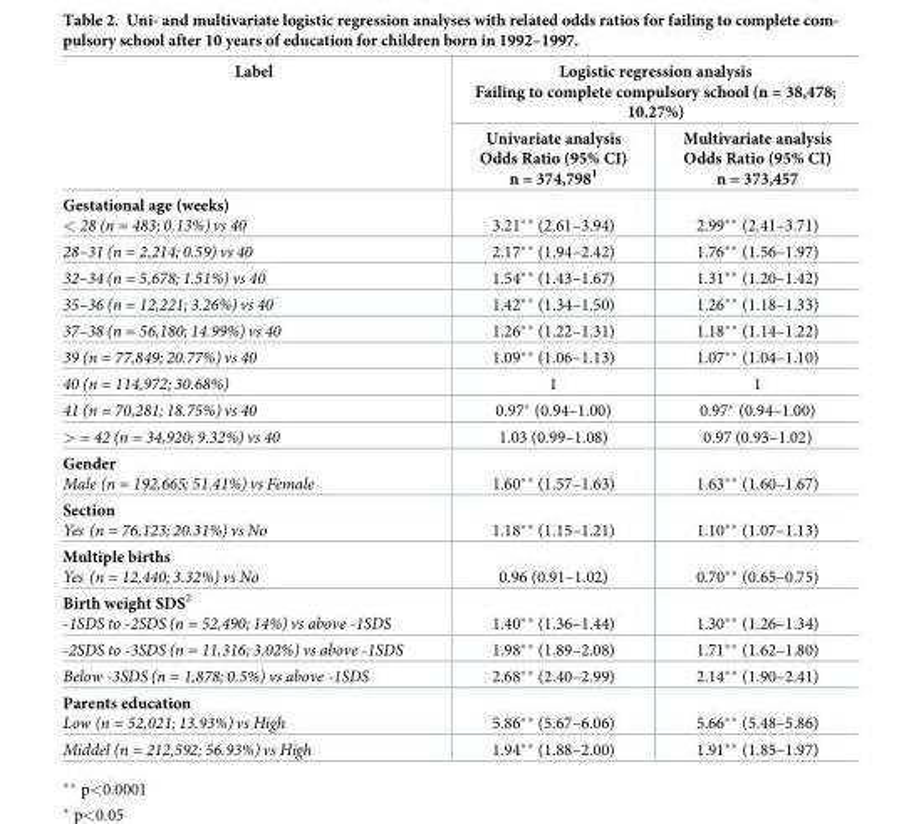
<table><thead><tr><td rowspan="2">Label</td><td colspan="2">Logistic regression analysis Failing to complete compulsory school (n = 38,478; 10.27%)</td></tr><tr><td>Univariate analysis Odds Ratio (95% CI) n = 374,798<sup>1</sup></td><td>Multivariate analysis Odds Ratio (95% CI) n = 373,457</td></tr></thead><tbody><tr><td>Gestational age (weeks) &lt; 28 (n = 483; 0.13%) vs 40</td><td>3.21** (2.61–3.94)</td><td>2.99** (2.41–3.71)</td></tr><tr><td>28–31 (n = 2,214; 0.59) vs 40</td><td>2.17** (1.94–2.42)</td><td>1.76** (1.56–1.97)</td></tr><tr><td>32–34 (n = 5,678; 1.51%) vs 40</td><td>1.54** (1.43–1.67)</td><td>1.31** (1.20–1.42)</td></tr><tr><td>35–36 (n = 12,221; 3.26%) vs 40</td><td>1.42** (1.34–1.50)</td><td>1.26** (1.18–1.33)</td></tr><tr><td>37–38 (n = 56,180; 14.99%) vs 40</td><td>1.26** (1.22–1.31)</td><td>1.18** (1.14–1.22)</td></tr><tr><td>39 (n = 77,849; 20.77%) vs 40</td><td>1.09** (1.06–1.13)</td><td>1.07** (1.04–1.10)</td></tr><tr><td>40 (n = 114,972; 30.68%)</td><td>1</td><td>1</td></tr><tr><td>41 (n = 70,281; 18.75%) vs 40</td><td>0.97* (0.94–1.00)</td><td>0.97* (0.94–1.00)</td></tr><tr><td>&gt; = 42 (n = 34,920; 9.32%) vs 40</td><td>1.03 (0.99–1.08)</td><td>0.97 (0.93–1.02)</td></tr><tr><td>Gender Male (n = 192,665; 51.41%) vs Female</td><td>1.60** (1.57–1.63)</td><td>1.63** (1.60–1.67)</td></tr><tr><td>Section Yes (n = 76,123; 20.31%) vs No</td><td>1.18** (1.15–1.21)</td><td>1.10** (1.07–1.13)</td></tr><tr><td>Multiple births Yes (n = 12,440; 3.32%) vs No</td><td>0.96 (0.91–1.02)</td><td>0.70** (0.65–0.75)</td></tr><tr><td>Birth weight SDS<sup>2</sup> -1SDS to -2SDS (n = 52,490; 14%) vs above -1SDS</td><td>1.40** (1.36–1.44)</td><td>1.30** (1.26–1.34)</td></tr><tr><td>-2SDS to -3SDS (n = 11,316; 3.02%) vs above -1SDS</td><td>1.98** (1.89–2.08)</td><td>1.71** (1.62–1.80)</td></tr><tr><td>Below -3SDS (n = 1,878; 0.5%) vs above -1SDS</td><td>2.68** (2.40–2.99)</td><td>2.14** (1.90–2.41)</td></tr><tr><td>Parents education Low (n = 52,021; 13.93%) vs High</td><td>5.86** (5.67–6.06)</td><td>5.66** (5.48–5.86)</td></tr><tr><td>Middel (n = 212,592; 56.93%) vs High</td><td>1.94** (1.88–2.00)</td><td>1.91** (1.85–1.97)</td></tr></tbody></table>